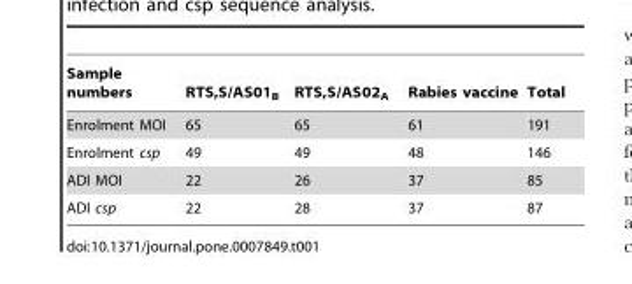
<table><thead><tr><td>Sample numbers</td><td>RTS,S/AS01<sub>B</sub></td><td>RTS,S/AS02<sub>A</sub></td><td>Rabies vaccine</td><td>Total</td></tr></thead><tbody><tr><td>Enrolment MOI</td><td>65</td><td>65</td><td>61</td><td>191</td></tr><tr><td>Enrolment csp</td><td>49</td><td>49</td><td>48</td><td>146</td></tr><tr><td>ADI MOI</td><td>22</td><td>26</td><td>37</td><td>85</td></tr><tr><td>ADI csp</td><td>22</td><td>28</td><td>37</td><td>87</td></tr></tbody></table>